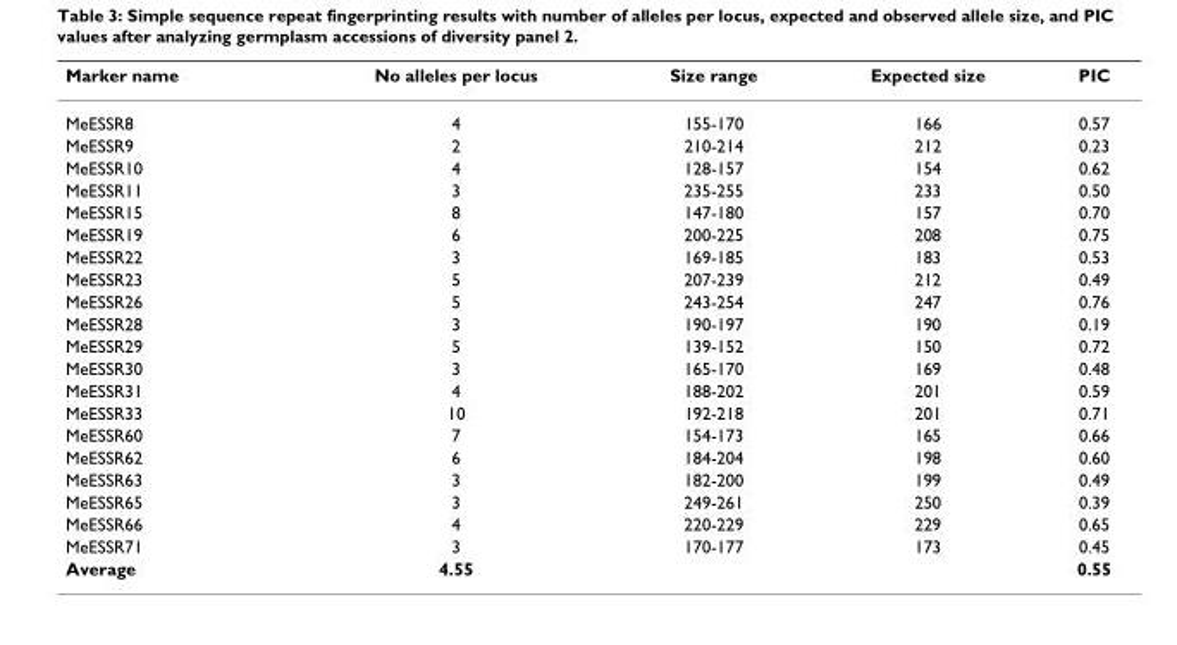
<table><tbody><tr><td>Marker name</td><td>No alleles per locus</td><td>Size range</td><td>Expected size</td><td>PIC</td></tr><tr><td>MeESSR8</td><td>4</td><td>155-170</td><td>166</td><td>0.57</td></tr><tr><td>MeESSR9</td><td>2</td><td>210-214</td><td>212</td><td>0.23</td></tr><tr><td>MeESSR10</td><td>4</td><td>128-157</td><td>154</td><td>0.62</td></tr><tr><td>MeESSR11</td><td>3</td><td>235-255</td><td>233</td><td>0.50</td></tr><tr><td>MeESSR15</td><td>8</td><td>147-180</td><td>157</td><td>0.70</td></tr><tr><td>MeESSR19</td><td>6</td><td>200-225</td><td>208</td><td>0.75</td></tr><tr><td>MeESSR22</td><td>3</td><td>169-185</td><td>183</td><td>0.53</td></tr><tr><td>MeESSR23</td><td>5</td><td>207-239</td><td>212</td><td>0.49</td></tr><tr><td>MeESSR26</td><td>5</td><td>243-254</td><td>247</td><td>0.76</td></tr><tr><td>MeESSR28</td><td>3</td><td>190-197</td><td>190</td><td>0.19</td></tr><tr><td>MeESSR29</td><td>5</td><td>139-152</td><td>150</td><td>0.72</td></tr><tr><td>MeESSR30</td><td>3</td><td>165-170</td><td>169</td><td>0.48</td></tr><tr><td>MeESSR31</td><td>4</td><td>188-202</td><td>201</td><td>0.59</td></tr><tr><td>MeESSR33</td><td>10</td><td>192-218</td><td>201</td><td>0.71</td></tr><tr><td>MeESSR60</td><td>7</td><td>154-173</td><td>165</td><td>0.66</td></tr><tr><td>MeESSR62</td><td>6</td><td>184-204</td><td>198</td><td>0.60</td></tr><tr><td>MeESSR63</td><td>3</td><td>182-200</td><td>199</td><td>0.49</td></tr><tr><td>MeESSR65</td><td>3</td><td>249-261</td><td>250</td><td>0.39</td></tr><tr><td>MeESSR66</td><td>4</td><td>220-229</td><td>229</td><td>0.65</td></tr><tr><td>MeESSR71</td><td>3</td><td>170-177</td><td>173</td><td>0.45</td></tr><tr><td>Average</td><td>4.55</td><td></td><td></td><td>0.55</td></tr></tbody></table>